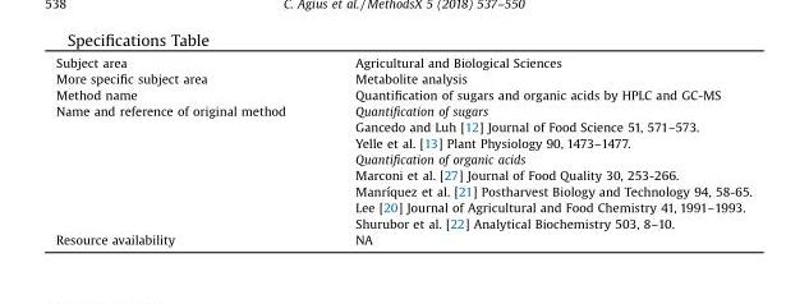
<table><tbody><tr><td>Subject area</td><td>Agricultural and Biological Sciences</td></tr><tr><td>More specific subject area</td><td>Metabolite analysis</td></tr><tr><td>Method name</td><td>Quantification of sugars and organic acids by HPLC and GC-MS</td></tr><tr><td>Name and reference of original method</td><td>Quantification of sugars Gancedo and Luh [12] Journal of Food Science 51, 571–573. Yelle et al. [13] Plant Physiology 90, 1473–1477. Quantification of organic acids Marconi et al. [27] Journal of Food Quality 30, 253-266. Manríquez et al. [21] Postharvest Biology and Technology 94, 58-65. Lee [20] Journal of Agricultural and Food Chemistry 41, 1991–1993. Shurubor et al. [22] Analytical Biochemistry 503, 8–10.</td></tr><tr><td>Resource availability</td><td>NA</td></tr></tbody></table>